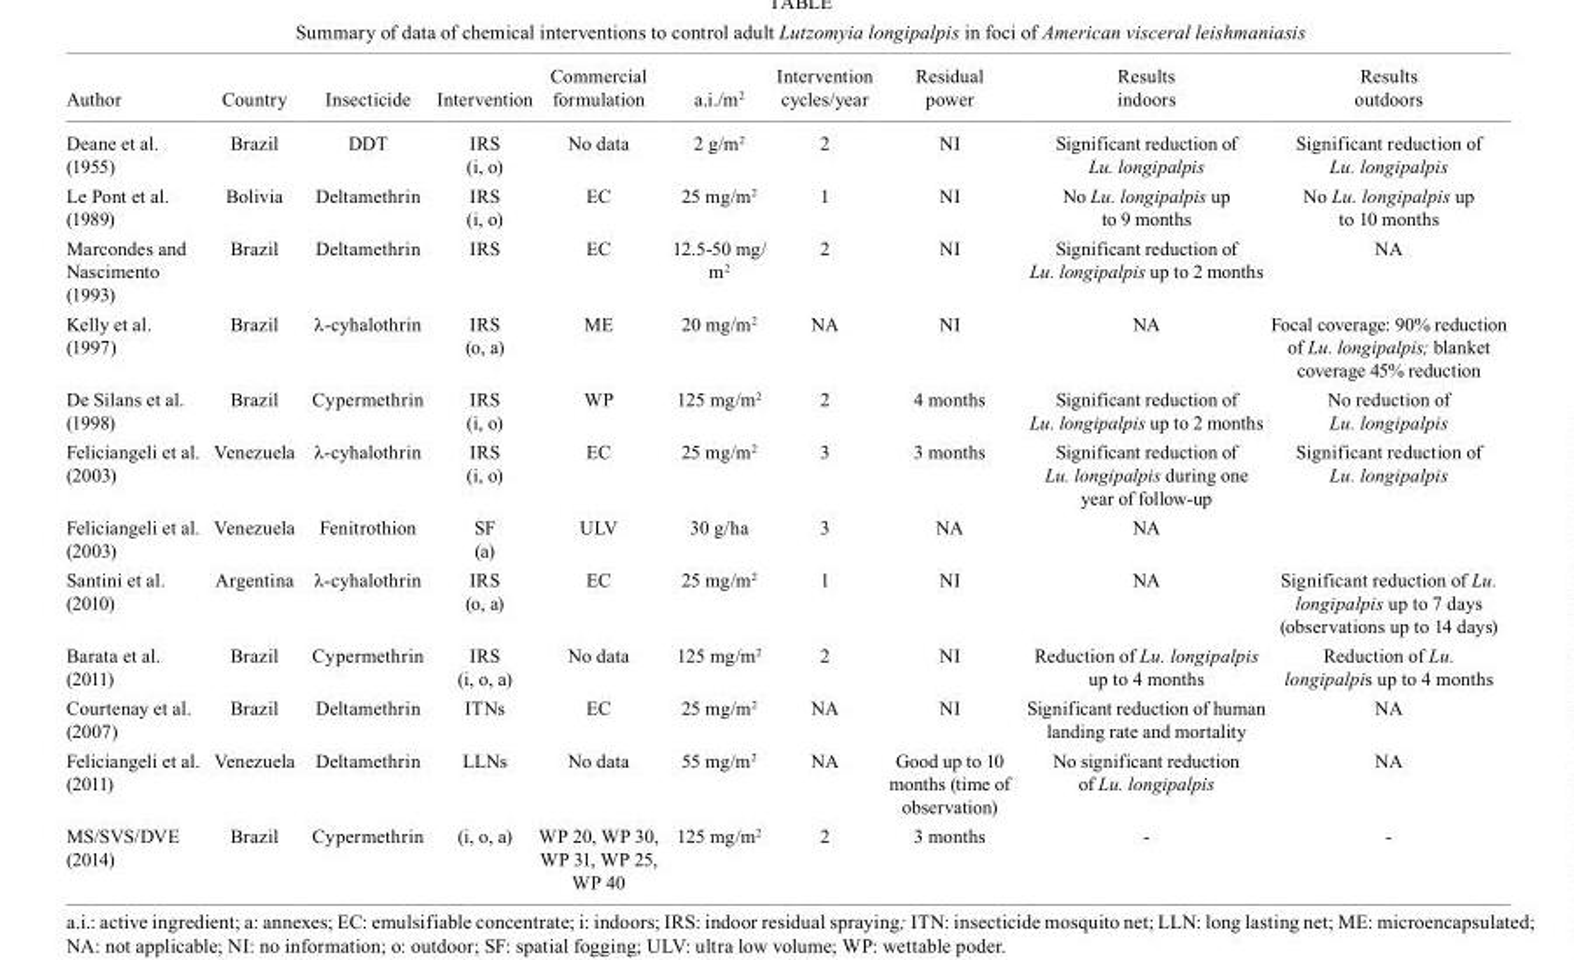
<table><thead><tr><td>Author</td><td>Country</td><td>Insecticide</td><td>Intervention</td><td>Commercial formulation</td><td>a.i./m<sup>2</sup></td><td>Intervention cycles/year</td><td>Residual power</td><td>Results indoors</td><td>Results outdoors</td></tr></thead><tbody><tr><td>Deane et al. (1955)</td><td>Brazil</td><td>DDT</td><td>IRS (i, o)</td><td>No data</td><td>2 g/m<sup>2</sup></td><td>2</td><td>NI</td><td>Significant reduction of Lu. longipalpis</td><td>Significant reduction of Lu. longipalpis</td></tr><tr><td>Le Pont et al. (1989)</td><td>Bolivia</td><td>Deltamethrin</td><td>IRS (i, o)</td><td>EC</td><td>25 mg/m<sup>2</sup></td><td>1</td><td>NI</td><td>No Lu. longipalpis up to 9 months</td><td>No Lu. longipalpis up to 10 months</td></tr><tr><td>Marcondes and Nascimento (1993)</td><td>Brazil</td><td>Deltamethrin</td><td>IRS</td><td>EC</td><td>12.5-50 mg/ m<sup>2</sup></td><td>2</td><td>NI</td><td>Significant reduction of Lu. longipalpis up to 2 months</td><td>NA</td></tr><tr><td>Kelly et al. (1997)</td><td>Brazil</td><td>λ-cyhalothrin</td><td>IRS (o, a)</td><td>ME</td><td>20 mg/m<sup>2</sup></td><td>NA</td><td>NI</td><td>NA</td><td>Focal coverage: 90% reduction of Lu. longipalpis; blanket coverage 45% reduction</td></tr><tr><td>De Silans et al. (1998)</td><td>Brazil</td><td>Cypermethrin</td><td>IRS (i, o)</td><td>WP</td><td>125 mg/m<sup>2</sup></td><td>2</td><td>4 months</td><td>Significant reduction of Lu. longipalpis up to 2 months</td><td>No reduction of Lu. longipalpis</td></tr><tr><td>Feliciangeli et al. (2003)</td><td>Venezuela</td><td>λ-cyhalothrin</td><td>IRS (i, o)</td><td>EC</td><td>25 mg/m<sup>2</sup></td><td>3</td><td>3 months</td><td>Significant reduction of Lu. longipalpis during one year of follow-up</td><td rowspan="2">Significant reduction of Lu. longipalpis</td></tr><tr><td>Feliciangeli et al. (2003)</td><td>Venezuela</td><td>Fenitrothion</td><td>SF (a)</td><td>ULV</td><td>30 g/ha</td><td>3</td><td>NA</td><td>NA</td></tr><tr><td>Santini et al. (2010)</td><td>Argentina</td><td>λ-cyhalothrin</td><td>IRS (o, a)</td><td>EC</td><td>25 mg/m<sup>2</sup></td><td>1</td><td>NI</td><td>NA</td><td>Significant reduction of Lu. longipalpis up to 7 days (observations up to 14 days)</td></tr><tr><td>Barata et al. (2011)</td><td>Brazil</td><td>Cypermethrin</td><td>IRS (i, o, a)</td><td>No data</td><td>125 mg/m<sup>2</sup></td><td>2</td><td>NI</td><td>Reduction of Lu. longipalpis up to 4 months</td><td>Reduction of Lu. longipalpis up to 4 months</td></tr><tr><td>Courtenay et al. (2007)</td><td>Brazil</td><td>Deltamethrin</td><td>ITNs</td><td>EC</td><td>25 mg/m<sup>2</sup></td><td>NA</td><td>NI</td><td>Significant reduction of human landing rate and mortality</td><td>NA</td></tr><tr><td>Feliciangeli et al. (2011)</td><td>Venezuela</td><td>Deltamethrin</td><td>LLNs</td><td>No data</td><td>55 mg/m<sup>2</sup></td><td>NA</td><td>Good up to 10 months (time of observation)</td><td>No significant reduction of Lu. longipalpis</td><td>NA</td></tr><tr><td>MS/SVS/DVE (2014)</td><td>Brazil</td><td>Cypermethrin</td><td>(i, o, a)</td><td>WP 20, WP 30, WP 31, WP 25, WP 40</td><td>125 mg/m<sup>2</sup></td><td>2</td><td>3 months</td><td>-</td><td>-</td></tr></tbody></table>